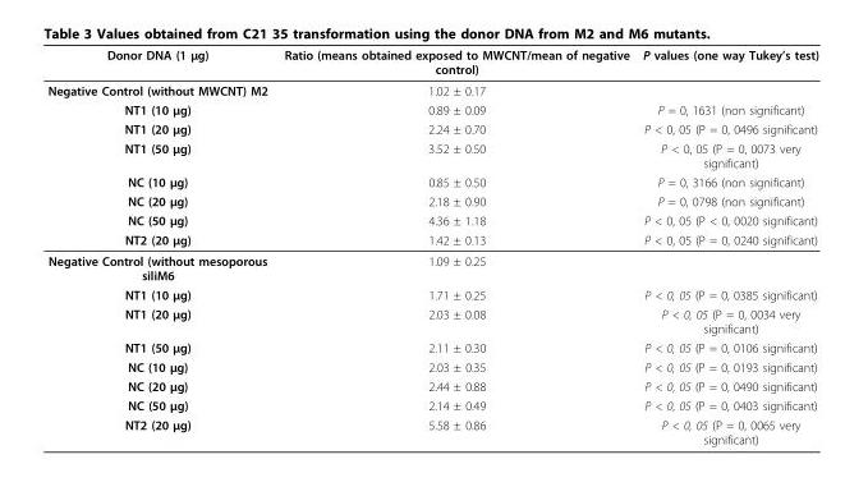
<table><thead><tr><td>Donor DNA (1 μg)</td><td>Ratio (means obtained exposed to MWCNT/mean of negative control)</td><td>P values (one way Tukey’s test)</td></tr></thead><tbody><tr><td>Negative Control (without MWCNT) M2</td><td>1.02 ± 0.17</td><td></td></tr><tr><td>NT1 (10 μg)</td><td>0.89 ± 0.09</td><td>P = 0, 1631 (non significant)</td></tr><tr><td>NT1 (20 μg)</td><td>2.24 ± 0.70</td><td>P &lt; 0, 05 (P = 0, 0496 significant)</td></tr><tr><td>NT1 (50 μg)</td><td>3.52 ± 0.50</td><td>P &lt; 0, 05 (P = 0, 0073 very significant)</td></tr><tr><td>NC (10 μg)</td><td>0.85 ± 0.50</td><td>P = 0, 3166 (non significant)</td></tr><tr><td>NC (20 μg)</td><td>2.18 ± 0.90</td><td>P = 0, 0798 (non significant)</td></tr><tr><td>NC (50 μg)</td><td>4.36 ± 1.18</td><td>P &lt; 0, 05 (P &lt; 0, 0020 significant)</td></tr><tr><td>NT2 (20 μg)</td><td>1.42 ± 0.13</td><td>P &lt; 0, 05 (P = 0, 0240 significant)</td></tr><tr><td>Negative Control (without mesoporous siliM6</td><td>1.09 ± 0.25</td><td></td></tr><tr><td>NT1 (10 μg)</td><td>1.71 ± 0.25</td><td>P &lt; 0, 05 (P = 0, 0385 significant)</td></tr><tr><td>NT1 (20 μg)</td><td>2.03 ± 0.08</td><td>P &lt; 0, 05 (P = 0, 0034 very significant)</td></tr><tr><td>NT1 (50 μg)</td><td>2.11 ± 0.30</td><td>P &lt; 0, 05 (P = 0, 0106 significant)</td></tr><tr><td>NC (10 μg)</td><td>2.03 ± 0.35</td><td>P &lt; 0, 05 (P = 0, 0193 significant)</td></tr><tr><td>NC (20 μg)</td><td>2.44 ± 0.88</td><td>P &lt; 0, 05 (P = 0, 0490 significant)</td></tr><tr><td>NC (50 μg)</td><td>2.14 ± 0.49</td><td>P &lt; 0, 05 (P = 0, 0403 significant)</td></tr><tr><td>NT2 (20 μg)</td><td>5.58 ± 0.86</td><td>P &lt; 0, 05 (P = 0, 0065 very significant)</td></tr></tbody></table>